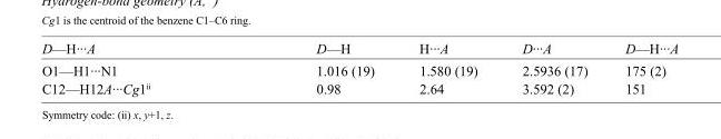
<table><tbody><tr><td>D—H···A</td><td>D—H</td><td>H···A</td><td>D···A</td><td>D—H···A</td></tr><tr><td>O1—H1···N1</td><td>1.016 (19)</td><td>1.580 (19)</td><td>2.5936 (17)</td><td>175 (2)</td></tr><tr><td>C12—H12A···Cg1<sup>ii</sup></td><td>0.98</td><td>2.64</td><td>3.592 (2)</td><td>151</td></tr></tbody></table>